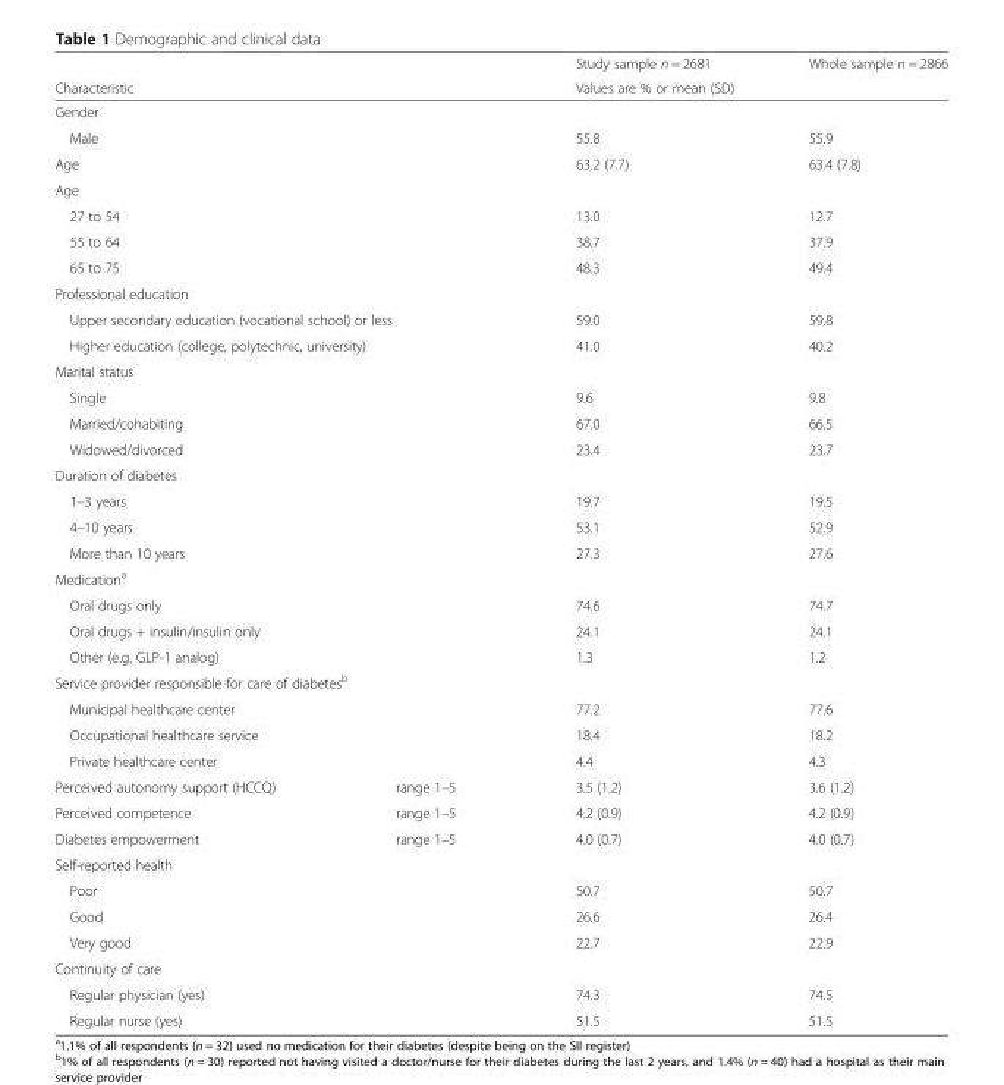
<table><thead><tr><td></td><td></td><td>Study sample n = 2681</td><td>Whole sample n = 2866</td></tr><tr><td colspan="2">Characteristic</td><td colspan="2">Values are % or mean (SD)</td></tr></thead><tbody><tr><td colspan="4">Gender</td></tr><tr><td colspan="2">Male</td><td>55.8</td><td>55.9</td></tr><tr><td colspan="2">Age</td><td>63.2 (7.7)</td><td>63.4 (7.8)</td></tr><tr><td colspan="4">Age</td></tr><tr><td colspan="2">27 to 54</td><td>13.0</td><td>12.7</td></tr><tr><td colspan="2">55 to 64</td><td>38.7</td><td>37.9</td></tr><tr><td colspan="2">65 to 75</td><td>48.3</td><td>49.4</td></tr><tr><td colspan="4">Professional education</td></tr><tr><td colspan="2">Upper secondary education (vocational school) or less</td><td>59.0</td><td>59.8</td></tr><tr><td colspan="2">Higher education (college, polytechnic, university)</td><td>41.0</td><td>40.2</td></tr><tr><td colspan="4">Marital status</td></tr><tr><td colspan="2">Single</td><td>9.6</td><td>9.8</td></tr><tr><td colspan="2">Married/cohabiting</td><td>67.0</td><td>66.5</td></tr><tr><td colspan="2">Widowed/divorced</td><td>23.4</td><td>23.7</td></tr><tr><td colspan="4">Duration of diabetes</td></tr><tr><td colspan="2">1–3 years</td><td>19.7</td><td>19.5</td></tr><tr><td colspan="2">4–10 years</td><td>53.1</td><td>52.9</td></tr><tr><td colspan="2">More than 10 years</td><td>27.3</td><td>27.6</td></tr><tr><td colspan="4">Medication<sup>a</sup></td></tr><tr><td colspan="2">Oral drugs only</td><td>74.6</td><td>74.7</td></tr><tr><td colspan="2">Oral drugs + insulin/insulin only</td><td>24.1</td><td>24.1</td></tr><tr><td colspan="2">Other (e.g. GLP-1 analog)</td><td>1.3</td><td>1.2</td></tr><tr><td colspan="4">Service provider responsible for care of diabetes<sup>b</sup></td></tr><tr><td colspan="2">Municipal healthcare center</td><td>77.2</td><td>77.6</td></tr><tr><td colspan="2">Occupational healthcare service</td><td>18.4</td><td>18.2</td></tr><tr><td colspan="2">Private healthcare center</td><td>4.4</td><td>4.3</td></tr><tr><td>Perceived autonomy support (HCCQ)</td><td>range 1–5</td><td>3.5 (1.2)</td><td>3.6 (1.2)</td></tr><tr><td>Perceived competence</td><td>range 1–5</td><td>4.2 (0.9)</td><td>4.2 (0.9)</td></tr><tr><td>Diabetes empowerment</td><td>range 1–5</td><td>4.0 (0.7)</td><td>4.0 (0.7)</td></tr><tr><td colspan="4">Self-reported health</td></tr><tr><td colspan="2">Poor</td><td>50.7</td><td>50.7</td></tr><tr><td colspan="2">Good</td><td>26.6</td><td>26.4</td></tr><tr><td colspan="2">Very good</td><td>22.7</td><td>22.9</td></tr><tr><td colspan="4">Continuity of care</td></tr><tr><td colspan="2">Regular physician (yes)</td><td>74.3</td><td>74.5</td></tr><tr><td colspan="2">Regular nurse (yes)</td><td>51.5</td><td>51.5</td></tr></tbody></table>